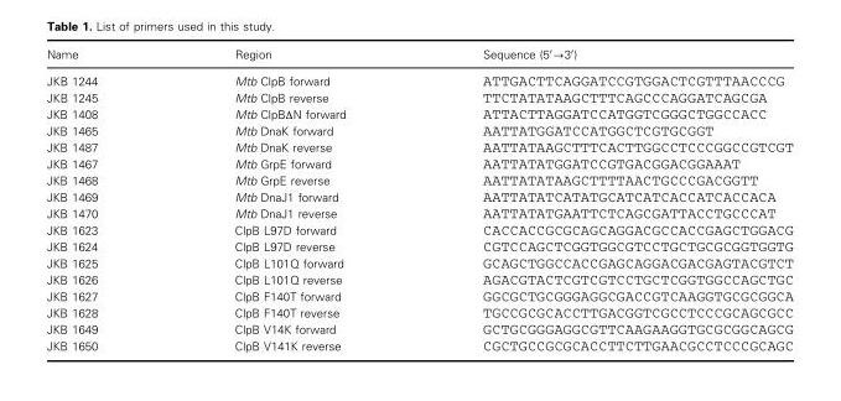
<table><thead><tr><td>Name</td><td>Region</td><td>Sequence (5′→3′)</td></tr></thead><tbody><tr><td>JKB 1244</td><td>Mtb ClpB forward</td><td>ATTGACTTCAGGATCCGTGGACTCGTTTAACCCG</td></tr><tr><td>JKB 1245</td><td>Mtb ClpB reverse</td><td>TTCTATATAAGCTTTCAGCCCAGGATCAGCGA</td></tr><tr><td>JKB 1408</td><td>Mtb ClpBΔN forward</td><td>ATTACTTAGGATCCATGGTCGGGCTGGCCACC</td></tr><tr><td>JKB 1465</td><td>Mtb DnaK forward</td><td>AATTATGGATCCATGGCTCGTGCGGT</td></tr><tr><td>JKB 1487</td><td>Mtb DnaK reverse</td><td>AATTATAAGCTTTCACTTGGCCTCCCGGCCGTCGT</td></tr><tr><td>JKB 1467</td><td>Mtb GrpE forward</td><td>AATTATATGGATCCGTGACGGACGGAAAT</td></tr><tr><td>JKB 1468</td><td>Mtb GrpE reverse</td><td>AATTATATAAGCTTTTAACTGCCCGACGGTT</td></tr><tr><td>JKB 1469</td><td>Mtb DnaJ1 forward</td><td>AATTATATCATATGCATCATCACCATCACCACA</td></tr><tr><td>JKB 1470</td><td>Mtb DnaJ1 reverse</td><td>AATTATATGAATTCTCAGCGATTACCTGCCCAT</td></tr><tr><td>JKB 1623</td><td>ClpB L97D forward</td><td>CACCACCGCGCAGCAGGACGCCACCGAGCTGGACG</td></tr><tr><td>JKB 1624</td><td>ClpB L97D reverse</td><td>CGTCCAGCTCGGTGGCGTCCTGCTGCGCGGTGGTG</td></tr><tr><td>JKB 1625</td><td>ClpB L101Q forward</td><td>GCAGCTGGCCACCGAGCAGGACGACGAGTACGTCT</td></tr><tr><td>JKB 1626</td><td>ClpB L101Q reverse</td><td>AGACGTACTCGTCGTCCTGCTCGGTGGCCAGCTGC</td></tr><tr><td>JKB 1627</td><td>ClpB F140T forward</td><td>GGCGCTGCGGGAGGCGACCGTCAAGGTGCGCGGCA</td></tr><tr><td>JKB 1628</td><td>ClpB F140T reverse</td><td>TGCCGCGCACCTTGACGGTCGCCTCCCGCAGCGCC</td></tr><tr><td>JKB 1649</td><td>ClpB V14K forward</td><td>GCTGCGGGAGGCGTTCAAGAAGGTGCGCGGCAGCG</td></tr><tr><td>JKB 1650</td><td>ClpB V141K reverse</td><td>CGCTGCCGCGCACCTTCTTGAACGCCTCCCGCAGC</td></tr></tbody></table>